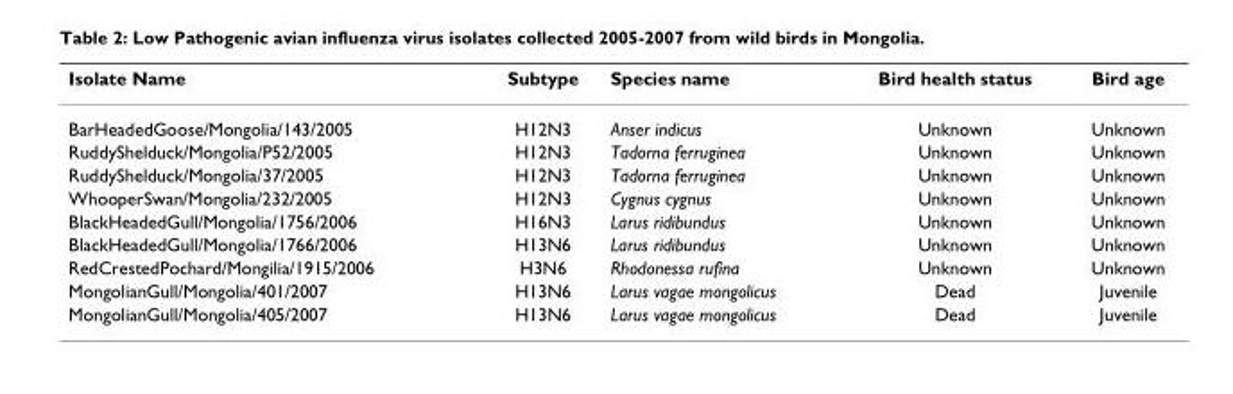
<table><thead><tr><td>Isolate Name</td><td>Subtype</td><td>Species name</td><td>Bird health status</td><td>Bird age</td></tr></thead><tbody><tr><td>BarHeadedGoose/Mongolia/143/2005</td><td>H12N3</td><td>Anser indicus</td><td>Unknown</td><td>Unknown</td></tr><tr><td>RuddyShelduck/Mongolia/P52/2005</td><td>H12N3</td><td>Tadorna ferruginea</td><td>Unknown</td><td>Unknown</td></tr><tr><td>RuddyShelduck/Mongolia/37/2005</td><td>H12N3</td><td>Tadorna ferruginea</td><td>Unknown</td><td>Unknown</td></tr><tr><td>WhooperSwan/Mongolia/232/2005</td><td>H12N3</td><td>Cygnus cygnus</td><td>Unknown</td><td>Unknown</td></tr><tr><td>BlackHeadedGull/Mongolia/1756/2006</td><td>H16N3</td><td>Larus ridibundus</td><td>Unknown</td><td>Unknown</td></tr><tr><td>BlackHeadedGull/Mongolia/1766/2006</td><td>H13N6</td><td>Larus ridibundus</td><td>Unknown</td><td>Unknown</td></tr><tr><td>RedCrestedPochard/Mongilia/1915/2006</td><td>H3N6</td><td>Rhodonessa rufina</td><td>Unknown</td><td>Unknown</td></tr><tr><td>MongolianGull/Mongolia/401/2007</td><td>H13N6</td><td>Larus vagae mongolicus</td><td>Dead</td><td>Juvenile</td></tr><tr><td>MongolianGull/Mongolia/405/2007</td><td>H13N6</td><td>Larus vagae mongolicus</td><td>Dead</td><td>Juvenile</td></tr></tbody></table>